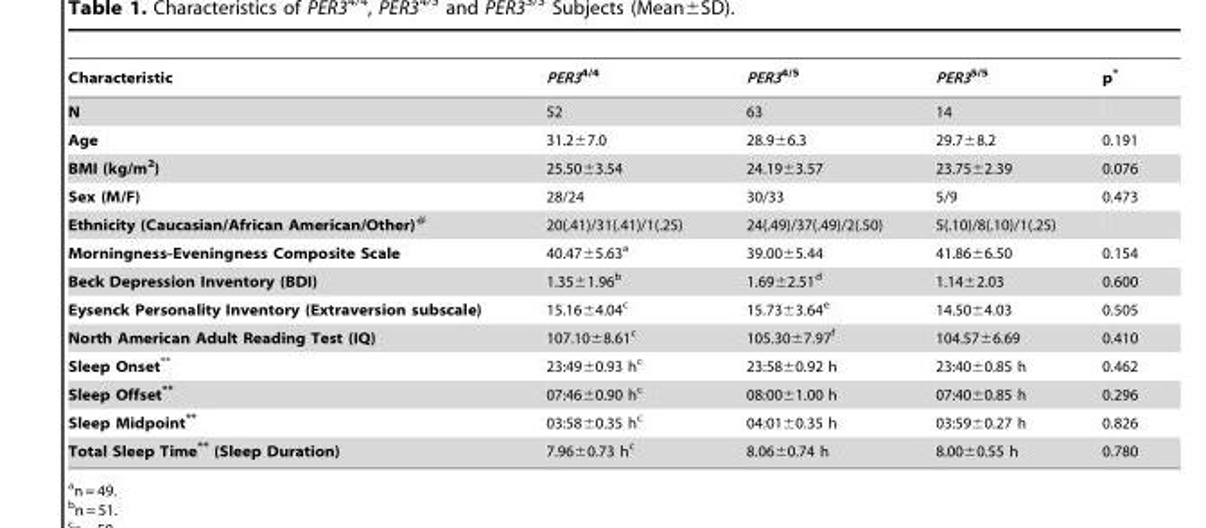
<table><thead><tr><td>Characteristic</td><td>PER3<sup>4/4</sup></td><td>PER3<sup>4/5</sup></td><td>PER3<sup>5/5</sup></td><td>p*</td></tr></thead><tbody><tr><td>N</td><td>52</td><td>63</td><td>14</td><td></td></tr><tr><td>Age</td><td>31.2±7.0</td><td>28.9±6.3</td><td>29.7±8.2</td><td>0.191</td></tr><tr><td>BMI (kg/m<sup>2</sup>)</td><td>25.50±3.54</td><td>24.19±3.57</td><td>23.75±2.39</td><td>0.076</td></tr><tr><td>Sex (M/F)</td><td>28/24</td><td>30/33</td><td>5/9</td><td>0.473</td></tr><tr><td>Ethnicity (Caucasian/African American/Other)#</td><td>20(.41)/31(.41)/1(.25)</td><td>24(.49)/37(.49)/2(.50)</td><td>5(.10)/8(.10)/1(.25)</td><td></td></tr><tr><td>Morningness-Eveningness Composite Scale</td><td>40.47±5.63<sup>a</sup></td><td>39.00±5.44</td><td>41.86±6.50</td><td>0.154</td></tr><tr><td>Beck Depression Inventory (BDI)</td><td>1.35±1.96<sup>b</sup></td><td>1.69±2.51<sup>d</sup></td><td>1.14±2.03</td><td>0.600</td></tr><tr><td>Eysenck Personality Inventory (Extraversion subscale)</td><td>15.16±4.04<sup>c</sup></td><td>15.73±3.64<sup>e</sup></td><td>14.50±4.03</td><td>0.505</td></tr><tr><td>North American Adult Reading Test (IQ)</td><td>107.10±8.61<sup>c</sup></td><td>105.30±7.97<sup>f</sup></td><td>104.57±6.69</td><td>0.410</td></tr><tr><td>Sleep Onset**</td><td>23:49±0.93 h<sup>c</sup></td><td>23:58±0.92 h</td><td>23:40±0.85 h</td><td>0.462</td></tr><tr><td>Sleep Offset**</td><td>07:46±0.90 h<sup>c</sup></td><td>08:00±1.00 h</td><td>07:40±0.85 h</td><td>0.296</td></tr><tr><td>Sleep Midpoint**</td><td>03:58±0.35 h<sup>c</sup></td><td>04:01±0.35 h</td><td>03:59±0.27 h</td><td>0.826</td></tr><tr><td>Total Sleep Time** (Sleep Duration)</td><td>7.96±0.73 h<sup>c</sup></td><td>8.06±0.74 h</td><td>8.00±0.55 h</td><td>0.780</td></tr></tbody></table>